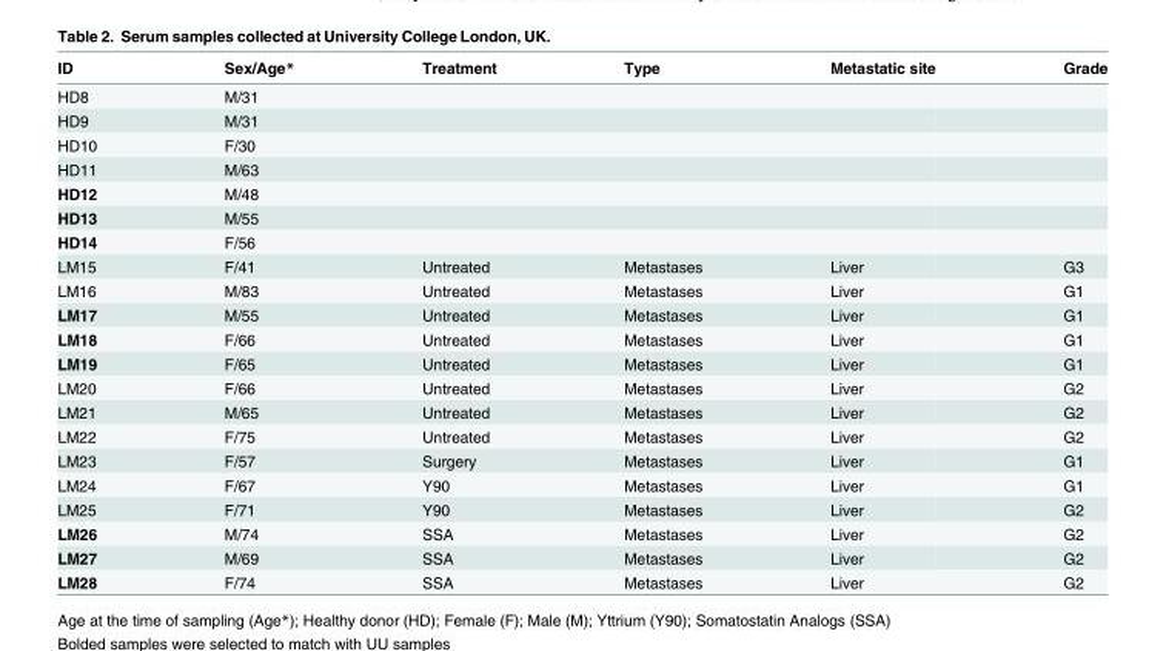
<table><thead><tr><td>ID</td><td>Sex/Age*</td><td>Treatment</td><td>Type</td><td>Metastatic site</td><td>Grade</td></tr></thead><tbody><tr><td>HD8</td><td>M/31</td><td></td><td></td><td></td><td></td></tr><tr><td>HD9</td><td>M/31</td><td></td><td></td><td></td><td></td></tr><tr><td>HD10</td><td>F/30</td><td></td><td></td><td></td><td></td></tr><tr><td>HD11</td><td>M/63</td><td></td><td></td><td></td><td></td></tr><tr><td>HD12</td><td>M/48</td><td></td><td></td><td></td><td></td></tr><tr><td>HD13</td><td>M/55</td><td></td><td></td><td></td><td></td></tr><tr><td>HD14</td><td>F/56</td><td></td><td></td><td></td><td></td></tr><tr><td>LM15</td><td>F/41</td><td>Untreated</td><td>Metastases</td><td>Liver</td><td>G3</td></tr><tr><td>LM16</td><td>M/83</td><td>Untreated</td><td>Metastases</td><td>Liver</td><td>G1</td></tr><tr><td>LM17</td><td>M/55</td><td>Untreated</td><td>Metastases</td><td>Liver</td><td>G1</td></tr><tr><td>LM18</td><td>F/66</td><td>Untreated</td><td>Metastases</td><td>Liver</td><td>G1</td></tr><tr><td>LM19</td><td>F/65</td><td>Untreated</td><td>Metastases</td><td>Liver</td><td>G1</td></tr><tr><td>LM20</td><td>F/66</td><td>Untreated</td><td>Metastases</td><td>Liver</td><td>G2</td></tr><tr><td>LM21</td><td>M/65</td><td>Untreated</td><td>Metastases</td><td>Liver</td><td>G2</td></tr><tr><td>LM22</td><td>F/75</td><td>Untreated</td><td>Metastases</td><td>Liver</td><td>G2</td></tr><tr><td>LM23</td><td>F/57</td><td>Surgery</td><td>Metastases</td><td>Liver</td><td>G1</td></tr><tr><td>LM24</td><td>F/67</td><td>Y90</td><td>Metastases</td><td>Liver</td><td>G1</td></tr><tr><td>LM25</td><td>F/71</td><td>Y90</td><td>Metastases</td><td>Liver</td><td>G2</td></tr><tr><td>LM26</td><td>M/74</td><td>SSA</td><td>Metastases</td><td>Liver</td><td>G2</td></tr><tr><td>LM27</td><td>M/69</td><td>SSA</td><td>Metastases</td><td>Liver</td><td>G2</td></tr><tr><td>LM28</td><td>F/74</td><td>SSA</td><td>Metastases</td><td>Liver</td><td>G2</td></tr></tbody></table>